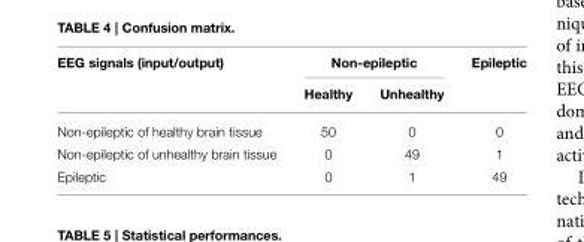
<table><thead><tr><td rowspan="2">EEG signals (input/output)</td><td colspan="2">Non-epileptic</td><td rowspan="2">Epileptic</td></tr><tr><td>Healthy</td><td>Unhealthy</td></tr></thead><tbody><tr><td>Non-epileptic of healthy brain tissue</td><td>50</td><td>0</td><td>0</td></tr><tr><td>Non-epileptic of unhealthy brain tissue</td><td>0</td><td>49</td><td>1</td></tr><tr><td>Epileptic</td><td>0</td><td>1</td><td>49</td></tr></tbody></table>